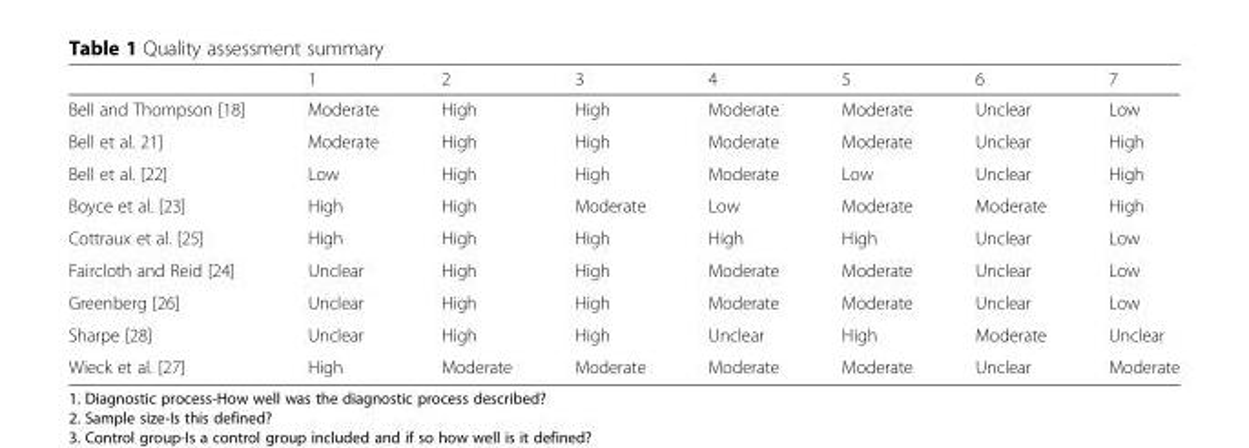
<table><thead><tr><td></td><td>1</td><td>2</td><td>3</td><td>4</td><td>5</td><td>6</td><td>7</td></tr></thead><tbody><tr><td>Bell and Thompson [18]</td><td>Moderate</td><td>High</td><td>High</td><td>Moderate</td><td>Moderate</td><td>Unclear</td><td>Low</td></tr><tr><td>Bell et al. 21]</td><td>Moderate</td><td>High</td><td>High</td><td>Moderate</td><td>Moderate</td><td>Unclear</td><td>High</td></tr><tr><td>Bell et al. [22]</td><td>Low</td><td>High</td><td>High</td><td>Moderate</td><td>Low</td><td>Unclear</td><td>High</td></tr><tr><td>Boyce et al. [23]</td><td>High</td><td>High</td><td>Moderate</td><td>Low</td><td>Moderate</td><td>Moderate</td><td>High</td></tr><tr><td>Cottraux et al. [25]</td><td>High</td><td>High</td><td>High</td><td>High</td><td>High</td><td>Unclear</td><td>Low</td></tr><tr><td>Faircloth and Reid [24]</td><td>Unclear</td><td>High</td><td>High</td><td>Moderate</td><td>Moderate</td><td>Unclear</td><td>Low</td></tr><tr><td>Greenberg [26]</td><td>Unclear</td><td>High</td><td>High</td><td>Moderate</td><td>Moderate</td><td>Unclear</td><td>Low</td></tr><tr><td>Sharpe [28]</td><td>Unclear</td><td>High</td><td>High</td><td>Unclear</td><td>High</td><td>Moderate</td><td>Unclear</td></tr><tr><td>Wieck et al. [27]</td><td>High</td><td>Moderate</td><td>Moderate</td><td>Moderate</td><td>Moderate</td><td>Unclear</td><td>Moderate</td></tr></tbody></table>